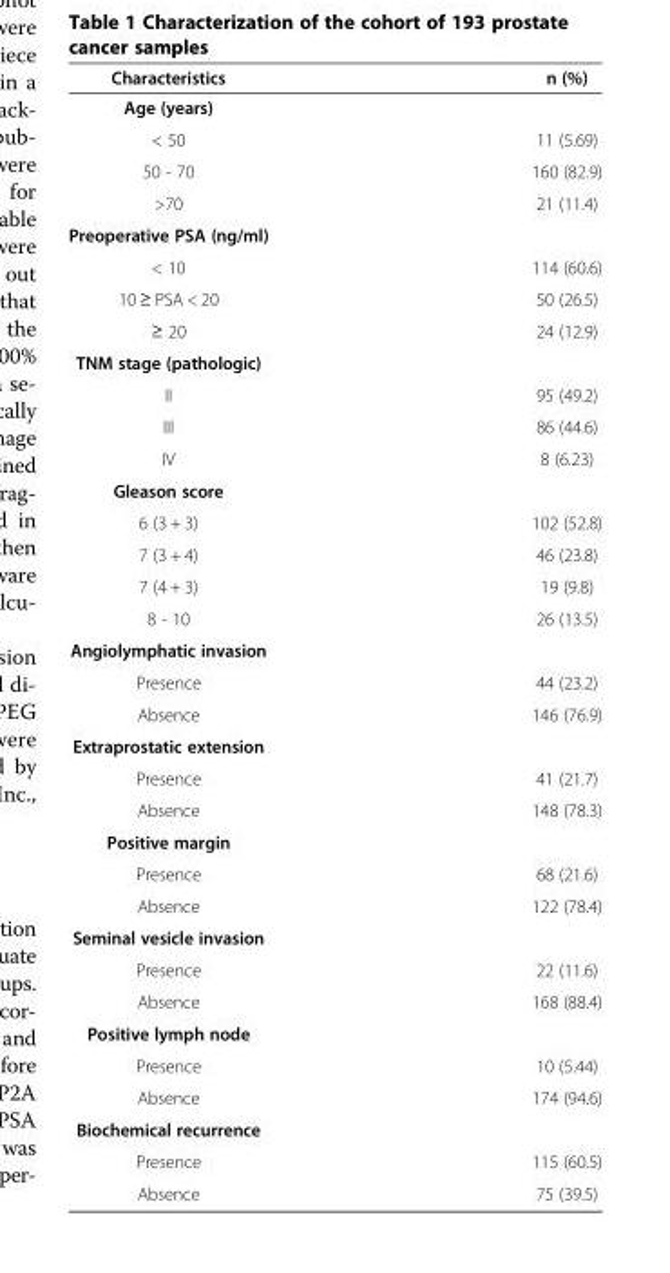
<table><thead><tr><td>Characteristics</td><td>n (%)</td></tr></thead><tbody><tr><td colspan="2">Age (years)</td></tr><tr><td>&lt; 50</td><td>11 (5.69)</td></tr><tr><td>50 - 70</td><td>160 (82.9)</td></tr><tr><td>&gt;70</td><td>21 (11.4)</td></tr><tr><td colspan="2">Preoperative PSA (ng/ml)</td></tr><tr><td>&lt; 10</td><td>114 (60.6)</td></tr><tr><td>10 ≥ PSA &lt; 20</td><td>50 (26.5)</td></tr><tr><td>≥ 20</td><td>24 (12.9)</td></tr><tr><td colspan="2">TNM stage (pathologic)</td></tr><tr><td>II</td><td>95 (49.2)</td></tr><tr><td>III</td><td>86 (44.6)</td></tr><tr><td>IV</td><td>8 (6.23)</td></tr><tr><td colspan="2">Gleason score</td></tr><tr><td>6 (3 + 3)</td><td>102 (52.8)</td></tr><tr><td>7 (3 + 4)</td><td>46 (23.8)</td></tr><tr><td>7 (4 + 3)</td><td>19 (9.8)</td></tr><tr><td>8 - 10</td><td>26 (13.5)</td></tr><tr><td colspan="2">Angiolymphatic invasion</td></tr><tr><td>Presence</td><td>44 (23.2)</td></tr><tr><td>Absence</td><td>146 (76.9)</td></tr><tr><td colspan="2">Extraprostatic extension</td></tr><tr><td>Presence</td><td>41 (21.7)</td></tr><tr><td>Absence</td><td>148 (78.3)</td></tr><tr><td colspan="2">Positive margin</td></tr><tr><td>Presence</td><td>68 (21.6)</td></tr><tr><td>Absence</td><td>122 (78.4)</td></tr><tr><td colspan="2">Seminal vesicle invasion</td></tr><tr><td>Presence</td><td>22 (11.6)</td></tr><tr><td>Absence</td><td>168 (88.4)</td></tr><tr><td colspan="2">Positive lymph node</td></tr><tr><td>Presence</td><td>10 (5.44)</td></tr><tr><td>Absence</td><td>174 (94.6)</td></tr><tr><td colspan="2">Biochemical recurrence</td></tr><tr><td>Presence</td><td>115 (60.5)</td></tr><tr><td>Absence</td><td>75 (39.5)</td></tr></tbody></table>